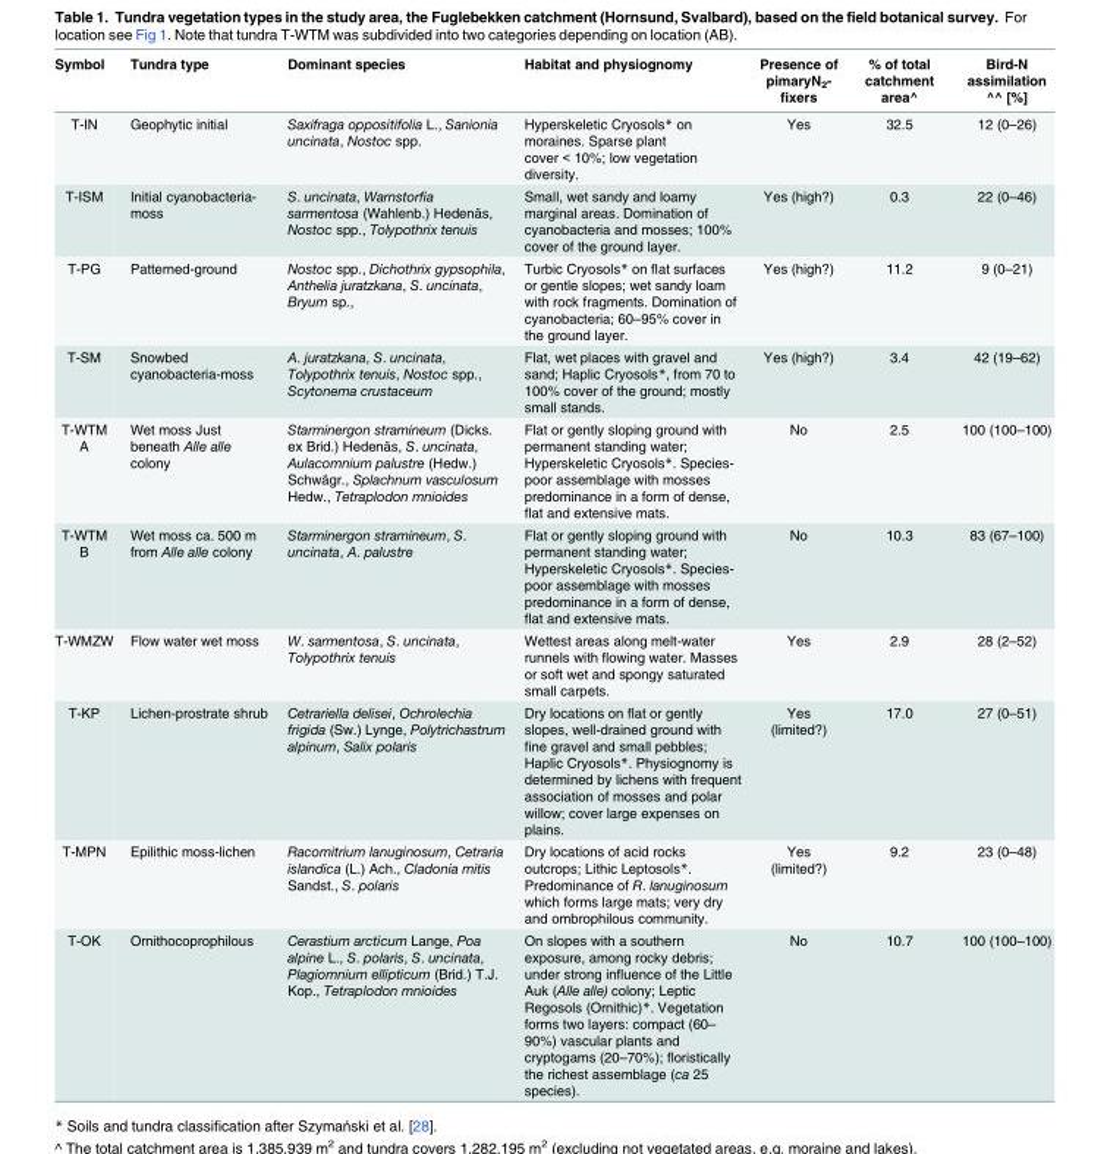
<table><thead><tr><td>Symbol</td><td>Tundra type</td><td>Dominant species</td><td>Habitat and physiognomy</td><td>Presence of pimaryN<sub>2</sub>- fixers</td><td>% of total catchment area^</td><td>Bird-N assimilation ^^ [%]</td></tr></thead><tbody><tr><td>T-IN</td><td>Geophytic initial</td><td>Saxifraga oppositifolia L., Sanionia uncinata, Nostoc spp.</td><td>Hyperskeletic Cryosols* on moraines. Sparse plant cover &lt; 10%; low vegetation diversity.</td><td>Yes</td><td>32.5</td><td>12 (0–26)</td></tr><tr><td>T-ISM</td><td>Initial cyanobacteria- moss</td><td>S. uncinata, Warnstorfia sarmentosa (Wahlenb.) Hedenäs, Nostoc spp., Tolypothrix tenuis</td><td>Small, wet sandy and loamy marginal areas. Domination of cyanobacteria and mosses; 100% cover of the ground layer.</td><td>Yes (high?)</td><td>0.3</td><td>22 (0–46)</td></tr><tr><td>T-PG</td><td>Patterned-ground</td><td>Nostoc spp., Dichothrix gypsophila, Anthelia juratzkana, S. uncinata, Bryum sp.,</td><td>Turbic Cryosols* on flat surfaces or gentle slopes; wet sandy loam with rock fragments. Domination of cyanobacteria; 60–95% cover in the ground layer.</td><td>Yes (high?)</td><td>11.2</td><td>9 (0–21)</td></tr><tr><td>T-SM</td><td>Snowbed cyanobacteria-moss</td><td>A. juratzkana, S. uncinata, Tolypothrix tenuis, Nostoc spp., Scytonema crustaceum</td><td>Flat, wet places with gravel and sand; Haplic Cryosols*, from 70 to 100% cover of the ground; mostly small stands.</td><td>Yes (high?)</td><td>3.4</td><td>42 (19–62)</td></tr><tr><td>T-WTM A</td><td>Wet moss Just beneath Alle alle colony</td><td>Starminergon stramineum (Dicks. ex Brid.) Hedenäs, S. uncinata, Aulacomnium palustre (Hedw.) Schwägr., Splachnum vasculosum Hedw., Tetraplodon mnioides</td><td>Flat or gently sloping ground with permanent standing water; Hyperskeletic Cryosols*. Species- poor assemblage with mosses predominance in a form of dense, flat and extensive mats.</td><td>No</td><td>2.5</td><td>100 (100–100)</td></tr><tr><td>T-WTM B</td><td>Wet moss ca. 500 m from Alle alle colony</td><td>Starminergon stramineum, S. uncinata, A. palustre</td><td>Flat or gently sloping ground with permanent standing water; Hyperskeletic Cryosols*. Species- poor assemblage with mosses predominance in a form of dense, flat and extensive mats.</td><td>No</td><td>10.3</td><td>83 (67–100)</td></tr><tr><td>T-WMZW</td><td>Flow water wet moss</td><td>W. sarmentosa, S. uncinata, Tolypothrix tenuis</td><td>Wettest areas along melt-water runnels with flowing water. Masses or soft wet and spongy saturated small carpets.</td><td>Yes</td><td>2.9</td><td>28 (2–52)</td></tr><tr><td>T-KP</td><td>Lichen-prostrate shrub</td><td>Cetrariella delisei, Ochrolechia frigida (Sw.) Lynge, Polytrichastrum alpinum, Salix polaris</td><td>Dry locations on flat or gently slopes, well-drained ground with fine gravel and small pebbles; Haplic Cryosols*. Physiognomy is determined by lichens with frequent association of mosses and polar willow; cover large expenses on plains.</td><td>Yes (limited?)</td><td>17.0</td><td>27 (0–51)</td></tr><tr><td>T-MPN</td><td>Epilithic moss-lichen</td><td>Racomitrium lanuginosum, Cetraria islandica (L.) Ach., Cladonia mitis Sandst., S. polaris</td><td>Dry locations of acid rocks outcrops; Lithic Leptosols*. Predominance of R. lanuginosum which forms large mats; very dry and ombrophilous community.</td><td>Yes (limited?)</td><td>9.2</td><td>23 (0–48)</td></tr><tr><td>T-OK</td><td>Ornithocoprophilous</td><td>Cerastium arcticum Lange, Poa alpine L., S. polaris, S. uncinata, Plagiomnium ellipticum (Brid.) T.J. Kop., Tetraplodon mnioides</td><td>On slopes with a southern exposure, among rocky debris; under strong influence of the Little Auk (Alle alle) colony; Leptic Regosols (Ornithic)*. Vegetation forms two layers: compact (60– 90%) vascular plants and cryptogams (20–70%); floristically the richest assemblage (ca 25 species).</td><td>No</td><td>10.7</td><td>100 (100–100)</td></tr></tbody></table>